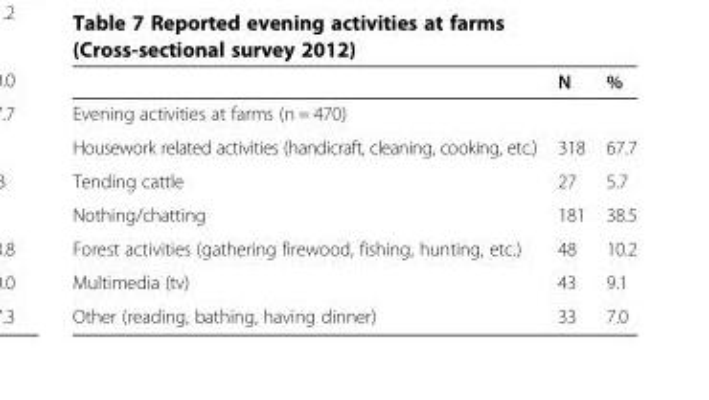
<table><thead><tr><td></td><td>N</td><td>%</td></tr></thead><tbody><tr><td colspan="3">Evening activities at farms (n = 470)</td></tr><tr><td>Housework related activities (handicraft, cleaning, cooking, etc.)</td><td>318</td><td>67.7</td></tr><tr><td>Tending cattle</td><td>27</td><td>5.7</td></tr><tr><td>Nothing/chatting</td><td>181</td><td>38.5</td></tr><tr><td>Forest activities (gathering firewood, fishing, hunting, etc.)</td><td>48</td><td>10.2</td></tr><tr><td>Multimedia (tv)</td><td>43</td><td>9.1</td></tr><tr><td>Other (reading, bathing, having dinner)</td><td>33</td><td>7.0</td></tr></tbody></table>